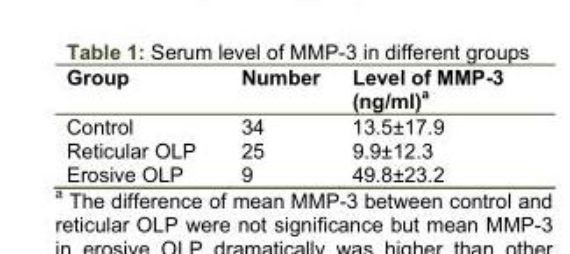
<table><thead><tr><td>Group</td><td>Number</td><td>Level of MMP-3 (ng/ml)<sup>a</sup></td></tr></thead><tbody><tr><td>Control</td><td>34</td><td>13.5±17.9</td></tr><tr><td>Reticular OLP</td><td>25</td><td>9.9±12.3</td></tr><tr><td>Erosive OLP</td><td>9</td><td>49.8±23.2</td></tr></tbody></table>